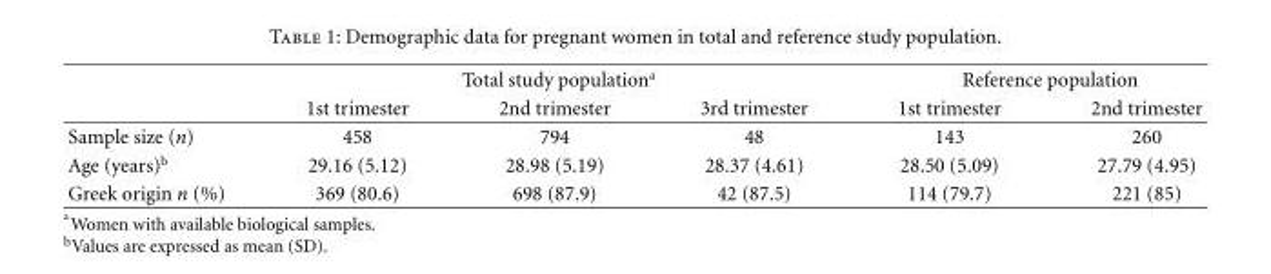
<table><thead><tr><td rowspan="2"></td><td colspan="3">Total study population<sup>a</sup></td><td colspan="2">Reference population</td></tr><tr><td>1st trimester</td><td>2nd trimester</td><td>3rd trimester</td><td>1st trimester</td><td>2nd trimester</td></tr></thead><tbody><tr><td>Sample size (n)</td><td>458</td><td>794</td><td>48</td><td>143</td><td>260</td></tr><tr><td>Age (years)<sup>b</sup></td><td>29.16 (5.12)</td><td>28.98 (5.19)</td><td>28.37 (4.61)</td><td>28.50 (5.09)</td><td>27.79 (4.95)</td></tr><tr><td>Greek origin n (%)</td><td>369 (80.6)</td><td>698 (87.9)</td><td>42 (87.5)</td><td>114 (79.7)</td><td>221 (85)</td></tr></tbody></table>